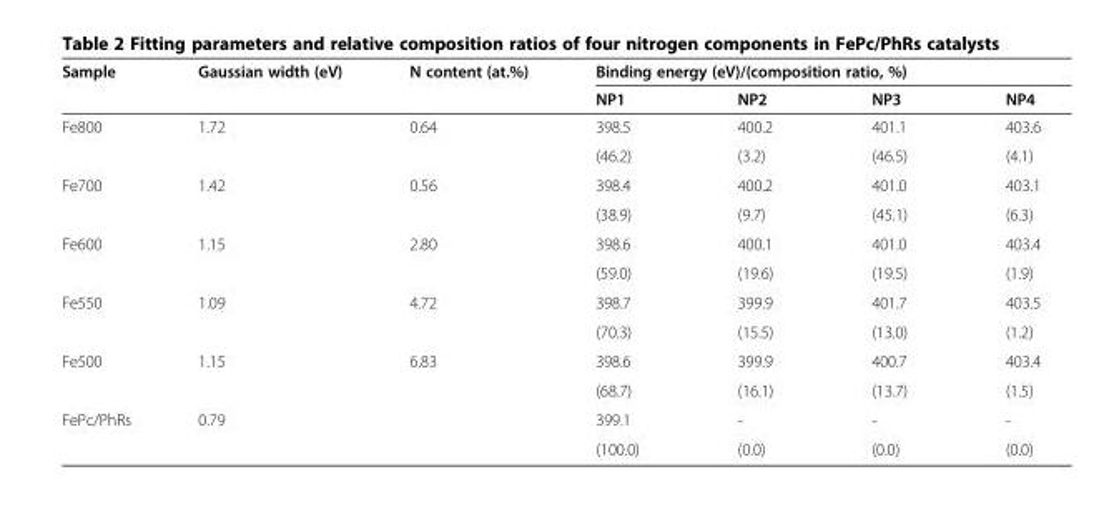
<table><thead><tr><td rowspan="2">Sample</td><td rowspan="2">Gaussian width (eV)</td><td rowspan="2">N content (at.%)</td><td colspan="4">Binding energy (eV)/(composition ratio, %)</td></tr><tr><td>NP1</td><td>NP2</td><td>NP3</td><td>NP4</td></tr></thead><tbody><tr><td rowspan="2">Fe800</td><td rowspan="2">1.72</td><td rowspan="2">0.64</td><td>398.5</td><td>400.2</td><td>401.1</td><td>403.6</td></tr><tr><td>(46.2)</td><td>(3.2)</td><td>(46.5)</td><td>(4.1)</td></tr><tr><td rowspan="2">Fe700</td><td rowspan="2">1.42</td><td rowspan="2">0.56</td><td>398.4</td><td>400.2</td><td>401.0</td><td>403.1</td></tr><tr><td>(38.9)</td><td>(9.7)</td><td>(45.1)</td><td>(6.3)</td></tr><tr><td rowspan="2">Fe600</td><td rowspan="2">1.15</td><td rowspan="2">2.80</td><td>398.6</td><td>400.1</td><td>401.0</td><td>403.4</td></tr><tr><td>(59.0)</td><td>(19.6)</td><td>(19.5)</td><td>(1.9)</td></tr><tr><td rowspan="2">Fe550</td><td rowspan="2">1.09</td><td rowspan="2">4.72</td><td>398.7</td><td>399.9</td><td>401.7</td><td>403.5</td></tr><tr><td>(70.3)</td><td>(15.5)</td><td>(13.0)</td><td>(1.2)</td></tr><tr><td rowspan="2">Fe500</td><td rowspan="2">1.15</td><td rowspan="3">6.83</td><td>398.6</td><td>399.9</td><td>400.7</td><td>403.4</td></tr><tr><td>(68.7)</td><td>(16.1)</td><td>(13.7)</td><td>(1.5)</td></tr><tr><td rowspan="2">FePc/PhRs</td><td>0.79</td><td>399.1</td><td>-</td><td>-</td><td>-</td></tr><tr><td></td><td></td><td>(100.0)</td><td>(0.0)</td><td>(0.0)</td><td>(0.0)</td></tr></tbody></table>